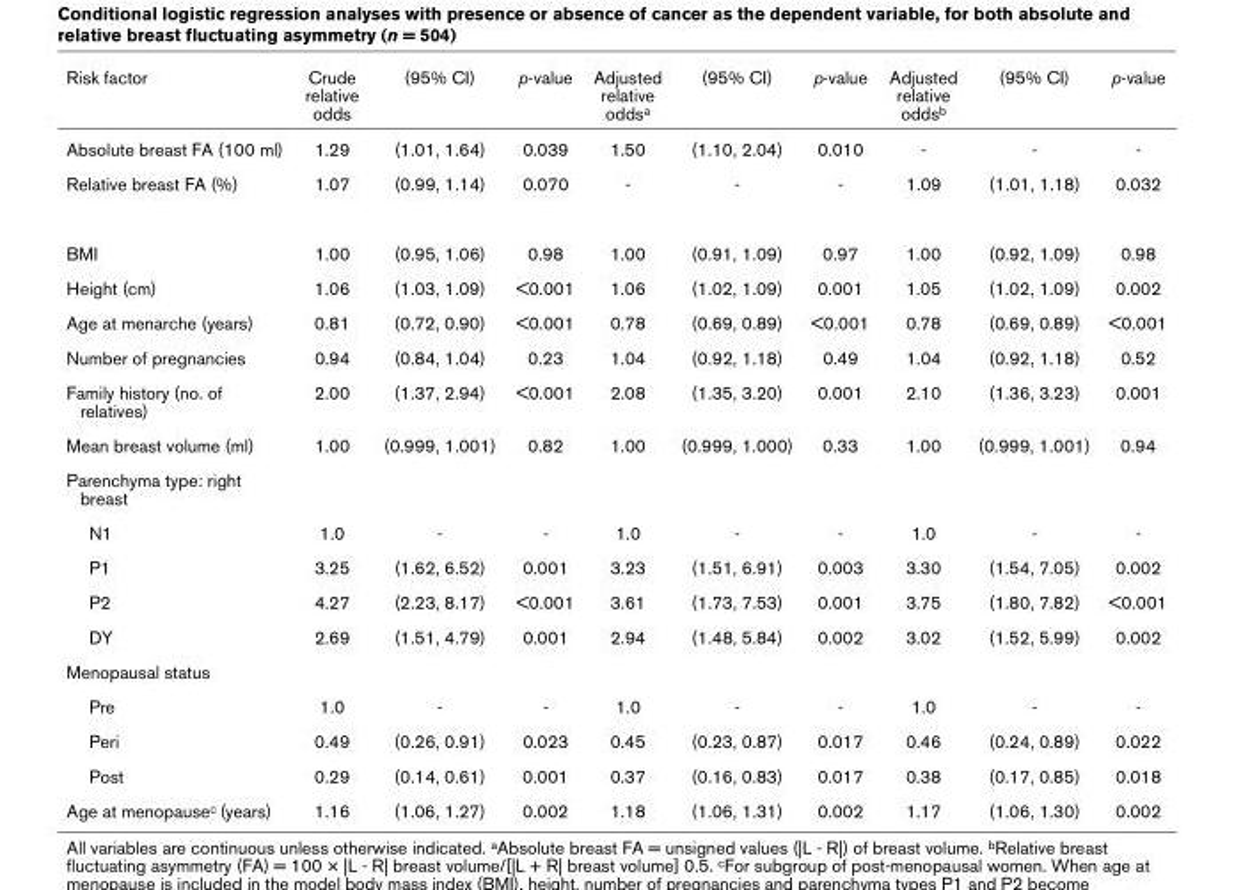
<table><thead><tr><td>Risk factor</td><td>Crude relative odds</td><td>(95% CI)</td><td>p-value</td><td>Adjusted relative oddsa</td><td>(95% CI)</td><td>p-value</td><td>Adjusted relative oddsb</td><td>(95% CI)</td><td>p-value</td></tr></thead><tbody><tr><td>Absolute breast FA (100 ml)</td><td>1.29</td><td>(1.01, 1.64)</td><td>0.039</td><td>1.50</td><td>(1.10, 2.04)</td><td>0.010</td><td>-</td><td>-</td><td>-</td></tr><tr><td>Relative breast FA (%)</td><td>1.07</td><td>(0.99, 1.14)</td><td>0.070</td><td>-</td><td>-</td><td>-</td><td>1.09</td><td>(1.01, 1.18)</td><td>0.032</td></tr><tr><td>BMI</td><td>1.00</td><td>(0.95, 1.06)</td><td>0.98</td><td>1.00</td><td>(0.91, 1.09)</td><td>0.97</td><td>1.00</td><td>(0.92, 1.09)</td><td>0.98</td></tr><tr><td>Height (cm)</td><td>1.06</td><td>(1.03, 1.09)</td><td>&lt;0.001</td><td>1.06</td><td>(1.02, 1.09)</td><td>0.001</td><td>1.05</td><td>(1.02, 1.09)</td><td>0.002</td></tr><tr><td>Age at menarche (years)</td><td>0.81</td><td>(0.72, 0.90)</td><td>&lt;0.001</td><td>0.78</td><td>(0.69, 0.89)</td><td>&lt;0.001</td><td>0.78</td><td>(0.69, 0.89)</td><td>&lt;0.001</td></tr><tr><td>Number of pregnancies</td><td>0.94</td><td>(0.84, 1.04)</td><td>0.23</td><td>1.04</td><td>(0.92, 1.18)</td><td>0.49</td><td>1.04</td><td>(0.92, 1.18)</td><td>0.52</td></tr><tr><td>Family history (no. of relatives)</td><td>2.00</td><td>(1.37, 2.94)</td><td>&lt;0.001</td><td>2.08</td><td>(1.35, 3.20)</td><td>0.001</td><td>2.10</td><td>(1.36, 3.23)</td><td>0.001</td></tr><tr><td>Mean breast volume (ml)</td><td>1.00</td><td>(0.999, 1.001)</td><td>0.82</td><td>1.00</td><td>(0.999, 1.000)</td><td>0.33</td><td>1.00</td><td>(0.999, 1.001)</td><td>0.94</td></tr><tr><td colspan="10">Parenchyma type: right breast</td></tr><tr><td>N1</td><td>1.0</td><td>-</td><td>-</td><td>1.0</td><td>-</td><td>-</td><td>1.0</td><td>-</td><td>-</td></tr><tr><td>P1</td><td>3.25</td><td>(1.62, 6.52)</td><td>0.001</td><td>3.23</td><td>(1.51, 6.91)</td><td>0.003</td><td>3.30</td><td>(1.54, 7.05)</td><td>0.002</td></tr><tr><td>P2</td><td>4.27</td><td>(2.23, 8.17)</td><td>&lt;0.001</td><td>3.61</td><td>(1.73, 7.53)</td><td>0.001</td><td>3.75</td><td>(1.80, 7.82)</td><td>&lt;0.001</td></tr><tr><td>DY</td><td>2.69</td><td>(1.51, 4.79)</td><td>0.001</td><td>2.94</td><td>(1.48, 5.84)</td><td>0.002</td><td>3.02</td><td>(1.52, 5.99)</td><td>0.002</td></tr><tr><td colspan="10">Menopausal status</td></tr><tr><td>Pre</td><td>1.0</td><td>-</td><td>-</td><td>1.0</td><td>-</td><td>-</td><td>1.0</td><td>-</td><td>-</td></tr><tr><td>Peri</td><td>0.49</td><td>(0.26, 0.91)</td><td>0.023</td><td>0.45</td><td>(0.23, 0.87)</td><td>0.017</td><td>0.46</td><td>(0.24, 0.89)</td><td>0.022</td></tr><tr><td>Post</td><td>0.29</td><td>(0.14, 0.61)</td><td>0.001</td><td>0.37</td><td>(0.16, 0.83)</td><td>0.017</td><td>0.38</td><td>(0.17, 0.85)</td><td>0.018</td></tr><tr><td>Age at menopausec (years)</td><td>1.16</td><td>(1.06, 1.27)</td><td>0.002</td><td>1.18</td><td>(1.06, 1.31)</td><td>0.002</td><td>1.17</td><td>(1.06, 1.30)</td><td>0.002</td></tr></tbody></table>